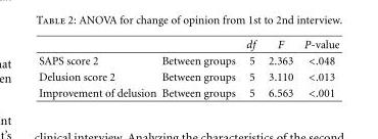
<table><thead><tr><td></td><td></td><td>df</td><td>F</td><td>P-value</td></tr></thead><tbody><tr><td>SAPS score 2</td><td>Between groups</td><td>5</td><td>2.363</td><td>&lt;.048</td></tr><tr><td>Delusion score 2</td><td>Between groups</td><td>5</td><td>3.110</td><td>&lt;.013</td></tr><tr><td>Improvement of delusion</td><td>Between groups</td><td>5</td><td>6.563</td><td>&lt;.001</td></tr></tbody></table>